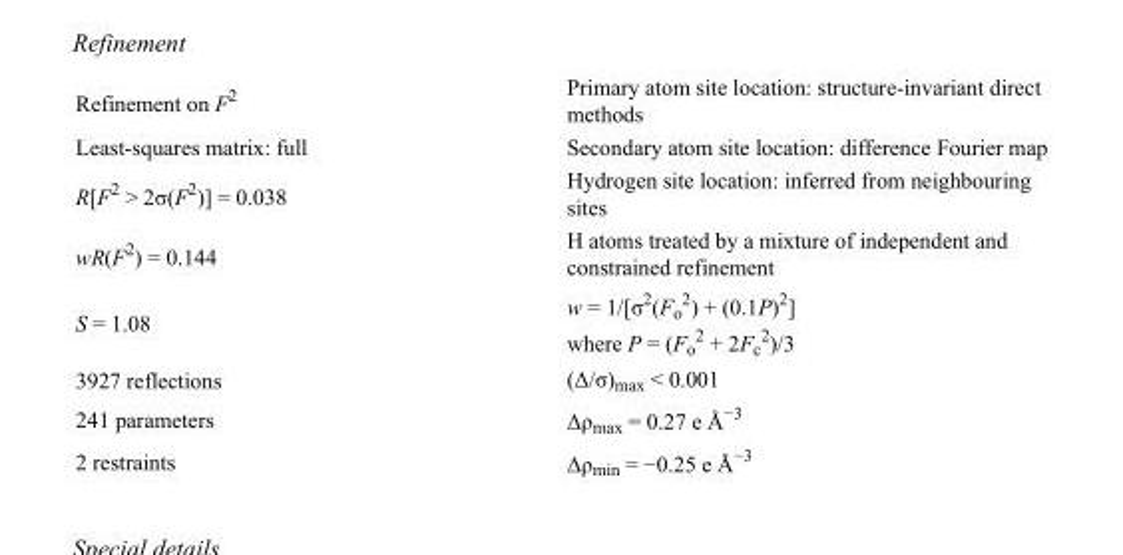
<table><tbody><tr><td>Refinement on F<sup>2</sup></td><td>Primary atom site location: structure-invariant direct methods</td></tr><tr><td>Least-squares matrix: full</td><td>Secondary atom site location: difference Fourier map</td></tr><tr><td>R[F<sup>2</sup> &gt; 2σ(F<sup>2</sup>)] = 0.038</td><td>Hydrogen site location: inferred from neighbouring sites</td></tr><tr><td>wR(F<sup>2</sup>) = 0.144</td><td>H atoms treated by a mixture of independent and constrained refinement</td></tr><tr><td>S = 1.08</td><td>w = 1/[σ<sup>2</sup>(F<sub>o</sub> <sup>2</sup>) + (0.1P)<sup>2</sup>] where P = (F<sub>o</sub> <sup>2</sup> + 2F<sub>c</sub> <sup>2</sup>)/3</td></tr><tr><td>3927 reflections</td><td>(Δ/σ)<sub>max</sub> &lt; 0.001</td></tr><tr><td>241 parameters</td><td>Δρ<sub>max</sub> = 0.27 e Å<sup>−3</sup></td></tr><tr><td>2 restraints</td><td>Δρ<sub>min</sub> = −0.25 e Å<sup>−3</sup></td></tr></tbody></table>